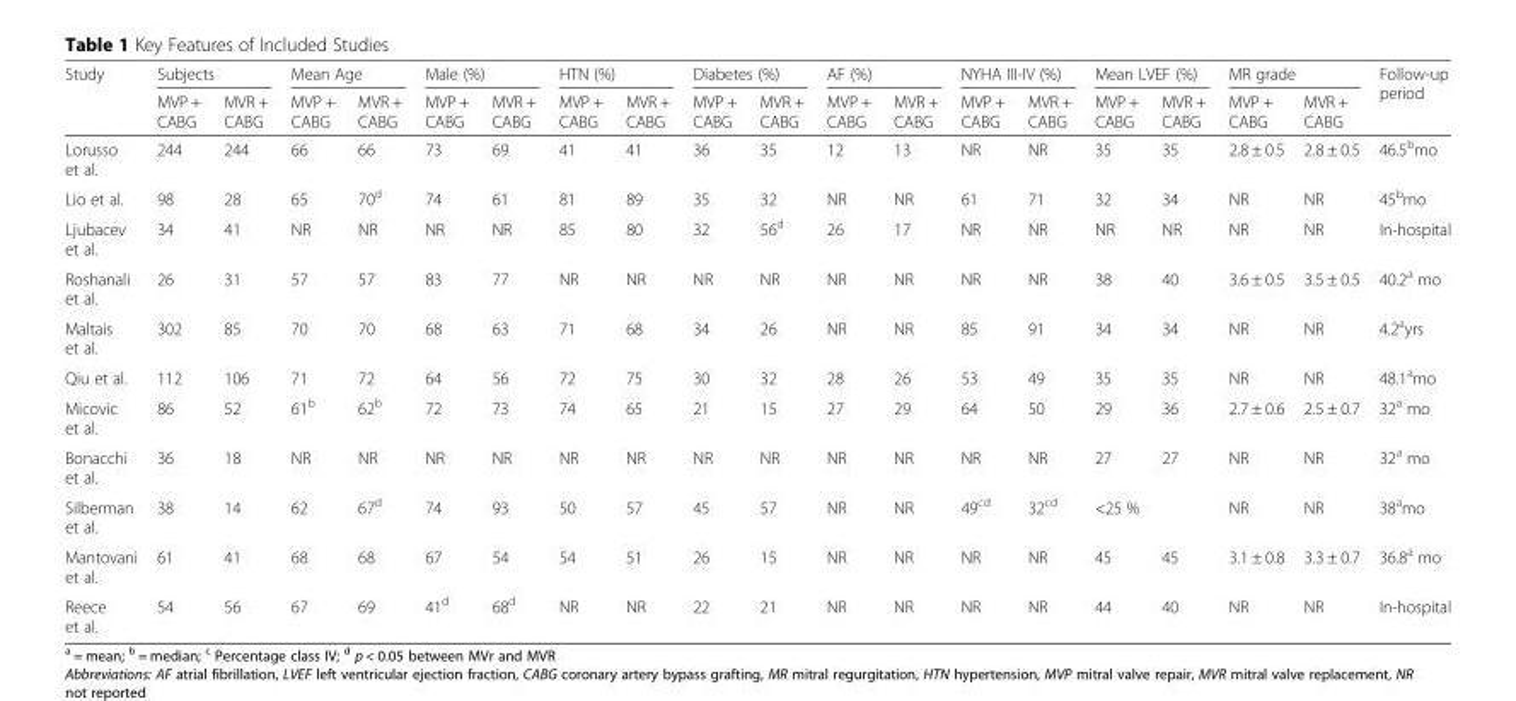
<table><thead><tr><td rowspan="2">Study</td><td colspan="2">Subjects</td><td colspan="2">Mean Age</td><td colspan="2">Male (%)</td><td colspan="2">HTN (%)</td><td colspan="2">Diabetes (%)</td><td colspan="2">AF (%)</td><td colspan="2">NYHA III-IV (%)</td><td colspan="2">Mean LVEF (%)</td><td colspan="2">MR grade</td><td rowspan="2">Follow-up period</td></tr><tr><td>MVP + CABG</td><td>MVR + CABG</td><td>MVP + CABG</td><td>MVR + CABG</td><td>MVP + CABG</td><td>MVR + CABG</td><td>MVP + CABG</td><td>MVR + CABG</td><td>MVP + CABG</td><td>MVR + CABG</td><td>MVP + CABG</td><td>MVR + CABG</td><td>MVP + CABG</td><td>MVR + CABG</td><td>MVP + CABG</td><td>MVR + CABG</td><td>MVP + CABG</td><td>MVR + CABG</td></tr></thead><tbody><tr><td>Lorusso et al.</td><td>244</td><td>244</td><td>66</td><td>66</td><td>73</td><td>69</td><td>41</td><td>41</td><td>36</td><td>35</td><td>12</td><td>13</td><td>NR</td><td>NR</td><td>35</td><td>35</td><td>2.8 ± 0.5</td><td>2.8 ± 0.5</td><td>46.5<sup>b</sup>mo</td></tr><tr><td>Lio et al.</td><td>98</td><td>28</td><td>65</td><td>70<sup>d</sup></td><td>74</td><td>61</td><td>81</td><td>89</td><td>35</td><td>32</td><td>NR</td><td>NR</td><td>61</td><td>71</td><td>32</td><td>34</td><td>NR</td><td>NR</td><td>45<sup>b</sup>mo</td></tr><tr><td>Ljubacev et al.</td><td>34</td><td>41</td><td>NR</td><td>NR</td><td>NR</td><td>NR</td><td>85</td><td>80</td><td>32</td><td>56<sup>d</sup></td><td>26</td><td>17</td><td>NR</td><td>NR</td><td>NR</td><td>NR</td><td>NR</td><td>NR</td><td>In-hospital</td></tr><tr><td>Roshanali et al.</td><td>26</td><td>31</td><td>57</td><td>57</td><td>83</td><td>77</td><td>NR</td><td>NR</td><td>NR</td><td>NR</td><td>NR</td><td>NR</td><td>NR</td><td>NR</td><td>38</td><td>40</td><td>3.6 ± 0.5</td><td>3.5 ± 0.5</td><td>40.2<sup>a</sup> mo</td></tr><tr><td>Maltais et al.</td><td>302</td><td>85</td><td>70</td><td>70</td><td>68</td><td>63</td><td>71</td><td>68</td><td>34</td><td>26</td><td>NR</td><td>NR</td><td>85</td><td>91</td><td>34</td><td>34</td><td>NR</td><td>NR</td><td>4.2<sup>a</sup>yrs</td></tr><tr><td>Qiu et al.</td><td>112</td><td>106</td><td>71</td><td>72</td><td>64</td><td>56</td><td>72</td><td>75</td><td>30</td><td>32</td><td>28</td><td>26</td><td>53</td><td>49</td><td>35</td><td>35</td><td>NR</td><td>NR</td><td>48.1<sup>a</sup>mo</td></tr><tr><td>Micovic et al.</td><td>86</td><td>52</td><td>61<sup>b</sup></td><td>62<sup>b</sup></td><td>72</td><td>73</td><td>74</td><td>65</td><td>21</td><td>15</td><td>27</td><td>29</td><td>64</td><td>50</td><td>29</td><td>36</td><td>2.7 ± 0.6</td><td>2.5 ± 0.7</td><td>32<sup>a</sup> mo</td></tr><tr><td>Bonacchi et al.</td><td>36</td><td>18</td><td>NR</td><td>NR</td><td>NR</td><td>NR</td><td>NR</td><td>NR</td><td>NR</td><td>NR</td><td>NR</td><td>NR</td><td>NR</td><td>NR</td><td>27</td><td>27</td><td>NR</td><td>NR</td><td>32<sup>a</sup> mo</td></tr><tr><td>Silberman et al.</td><td>38</td><td>14</td><td>62</td><td>67<sup>d</sup></td><td>74</td><td>93</td><td>50</td><td>57</td><td>45</td><td>57</td><td>NR</td><td>NR</td><td>49<sup>cd</sup></td><td>32<sup>cd</sup></td><td colspan="2">&lt;25 %</td><td>NR</td><td>NR</td><td>38<sup>a</sup>mo</td></tr><tr><td>Mantovani et al.</td><td>61</td><td>41</td><td>68</td><td>68</td><td>67</td><td>54</td><td>54</td><td>51</td><td>26</td><td>15</td><td>NR</td><td>NR</td><td>NR</td><td>NR</td><td>45</td><td>45</td><td>3.1 ± 0.8</td><td>3.3 ± 0.7</td><td>36.8<sup>a</sup> mo</td></tr><tr><td>Reece et al.</td><td>54</td><td>56</td><td>67</td><td>69</td><td>41<sup>d</sup></td><td>68<sup>d</sup></td><td>NR</td><td>NR</td><td>22</td><td>21</td><td>NR</td><td>NR</td><td>NR</td><td>NR</td><td>44</td><td>40</td><td>NR</td><td>NR</td><td>In-hospital</td></tr></tbody></table>